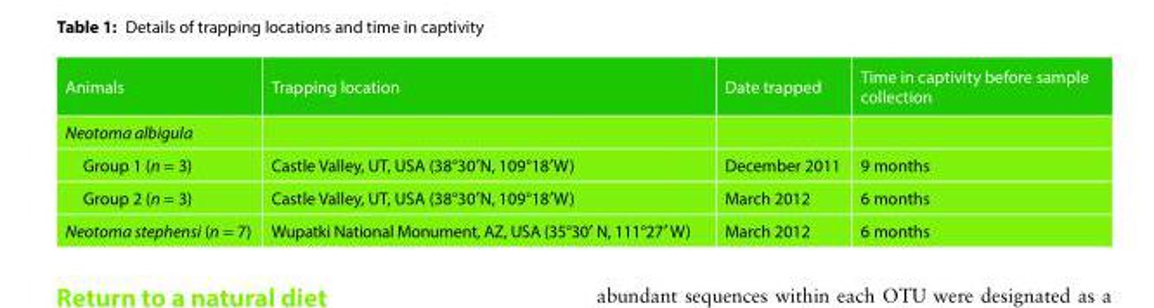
<table><thead><tr><td>Animals</td><td>Trapping location</td><td>Date trapped</td><td>Time in captivity before sample collection</td></tr></thead><tbody><tr><td colspan="4">Neotoma albigula</td></tr><tr><td>Group 1 (n = 3)</td><td>Castle Valley, UT, USA (38°30′N, 109°18′W)</td><td>December 2011</td><td>9 months</td></tr><tr><td>Group 2 (n = 3)</td><td>Castle Valley, UT, USA (38°30′N, 109°18′W)</td><td>March 2012</td><td>6 months</td></tr><tr><td>Neotoma stephensi (n = 7)</td><td>Wupatki National Monument, AZ, USA (35°30′ N, 111°27′ W)</td><td>March 2012</td><td>6 months</td></tr></tbody></table>